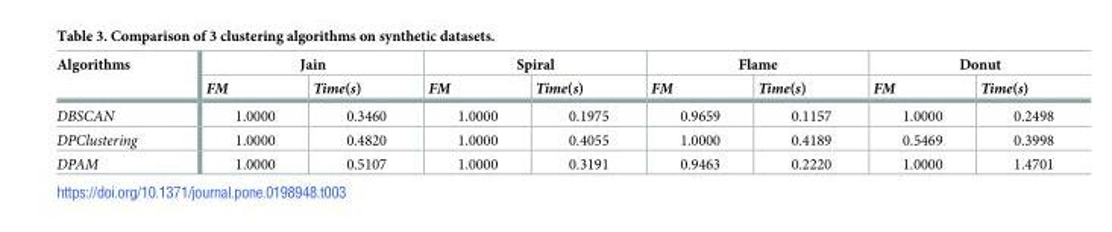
<table><thead><tr><td rowspan="2">Algorithms</td><td colspan="2">Jain</td><td colspan="2">Spiral</td><td colspan="2">Flame</td><td colspan="2">Donut</td></tr><tr><td>FM</td><td>Time(s)</td><td>FM</td><td>Time(s)</td><td>FM</td><td>Time(s)</td><td>FM</td><td>Time(s)</td></tr></thead><tbody><tr><td>DBSCAN</td><td>1.0000</td><td>0.3460</td><td>1.0000</td><td>0.1975</td><td>0.9659</td><td>0.1157</td><td>1.0000</td><td>0.2498</td></tr><tr><td>DPClustering</td><td>1.0000</td><td>0.4820</td><td>1.0000</td><td>0.4055</td><td>1.0000</td><td>0.4189</td><td>0.5469</td><td>0.3998</td></tr><tr><td>DPAM</td><td>1.0000</td><td>0.5107</td><td>1.0000</td><td>0.3191</td><td>0.9463</td><td>0.2220</td><td>1.0000</td><td>1.4701</td></tr></tbody></table>